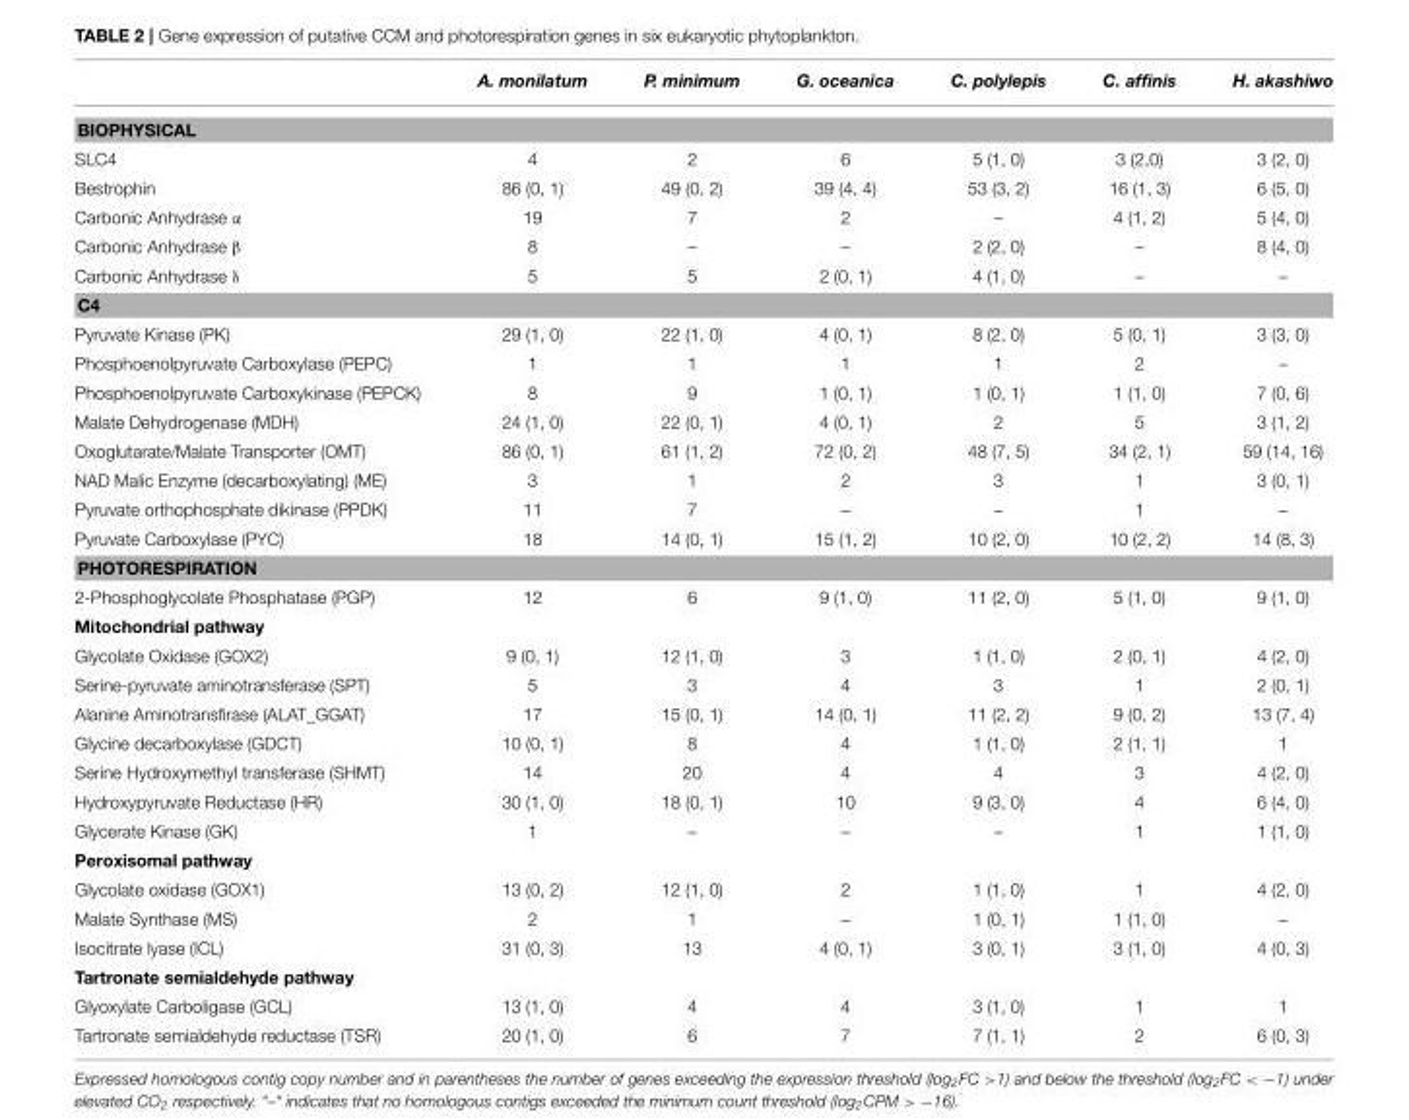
<table><thead><tr><td></td><td>A. monilatum</td><td>P. minimum</td><td>G. oceanica</td><td>C. polylepis</td><td>C. affinis</td><td>H. akashiwo</td></tr></thead><tbody><tr><td colspan="7">BIOPHYSICAL</td></tr><tr><td>SLC4</td><td>4</td><td>2</td><td>6</td><td>5 (1, 0)</td><td>3 (2,0)</td><td>3 (2, 0)</td></tr><tr><td>Bestrophin</td><td>86 (0, 1)</td><td>49 (0, 2)</td><td>39 (4, 4)</td><td>53 (3, 2)</td><td>16 (1, 3)</td><td>6 (5, 0)</td></tr><tr><td>Carbonic Anhydrase α</td><td>19</td><td>7</td><td>2</td><td>–</td><td>4 (1, 2)</td><td>5 (4, 0)</td></tr><tr><td>Carbonic Anhydrase β</td><td>8</td><td>–</td><td>–</td><td>2 (2, 0)</td><td>–</td><td>8 (4, 0)</td></tr><tr><td>Carbonic Anhydrase δ</td><td>5</td><td>5</td><td>2 (0, 1)</td><td>4 (1, 0)</td><td>–</td><td>–</td></tr><tr><td colspan="7">C4</td></tr><tr><td>Pyruvate Kinase (PK)</td><td>29 (1, 0)</td><td>22 (1, 0)</td><td>4 (0, 1)</td><td>8 (2, 0)</td><td>5 (0, 1)</td><td>3 (3, 0)</td></tr><tr><td>Phosphoenolpyruvate Carboxylase (PEPC)</td><td>1</td><td>1</td><td>1</td><td>1</td><td>2</td><td>–</td></tr><tr><td>Phosphoenolpyruvate Carboxykinase (PEPCK)</td><td>8</td><td>9</td><td>1 (0, 1)</td><td>1 (0, 1)</td><td>1 (1, 0)</td><td>7 (0, 6)</td></tr><tr><td>Malate Dehydrogenase (MDH)</td><td>24 (1, 0)</td><td>22 (0, 1)</td><td>4 (0, 1)</td><td>2</td><td>5</td><td>3 (1, 2)</td></tr><tr><td>Oxoglutarate/Malate Transporter (OMT)</td><td>86 (0, 1)</td><td>61 (1, 2)</td><td>72 (0, 2)</td><td>48 (7, 5)</td><td>34 (2, 1)</td><td>59 (14, 16)</td></tr><tr><td>NAD Malic Enzyme (decarboxylating) (ME)</td><td>3</td><td>1</td><td>2</td><td>3</td><td>1</td><td>3 (0, 1)</td></tr><tr><td>Pyruvate orthophosphate dikinase (PPDK)</td><td>11</td><td>7</td><td>–</td><td>–</td><td>1</td><td>–</td></tr><tr><td>Pyruvate Carboxylase (PYC)</td><td>18</td><td>14 (0, 1)</td><td>15 (1, 2)</td><td>10 (2, 0)</td><td>10 (2, 2)</td><td>14 (8, 3)</td></tr><tr><td colspan="7">PHOTORESPIRATION</td></tr><tr><td>2-Phosphoglycolate Phosphatase (PGP)</td><td>12</td><td>6</td><td>9 (1, 0)</td><td>11 (2, 0)</td><td>5 (1, 0)</td><td>9 (1, 0)</td></tr><tr><td colspan="7">Mitochondrial pathway</td></tr><tr><td>Glycolate Oxidase (GOX2)</td><td>9 (0, 1)</td><td>12 (1, 0)</td><td>3</td><td>1 (1, 0)</td><td>2 (0, 1)</td><td>4 (2, 0)</td></tr><tr><td>Serine-pyruvate aminotransferase (SPT)</td><td>5</td><td>3</td><td>4</td><td>3</td><td>1</td><td>2 (0, 1)</td></tr><tr><td>Alanine Aminotransfirase (ALAT_GGAT)</td><td>17</td><td>15 (0, 1)</td><td>14 (0, 1)</td><td>11 (2, 2)</td><td>9 (0, 2)</td><td>13 (7, 4)</td></tr><tr><td>Glycine decarboxylase (GDCT)</td><td>10 (0, 1)</td><td>8</td><td>4</td><td>1 (1, 0)</td><td>2 (1, 1)</td><td>1</td></tr><tr><td>Serine Hydroxymethyl transferase (SHMT)</td><td>14</td><td>20</td><td>4</td><td>4</td><td>3</td><td>4 (2, 0)</td></tr><tr><td>Hydroxypyruvate Reductase (HR)</td><td>30 (1, 0)</td><td>18 (0, 1)</td><td>10</td><td>9 (3, 0)</td><td>4</td><td>6 (4, 0)</td></tr><tr><td>Glycerate Kinase (GK)</td><td>1</td><td>–</td><td>–</td><td>–</td><td>1</td><td>1 (1, 0)</td></tr><tr><td colspan="7">Peroxisomal pathway</td></tr><tr><td>Glycolate oxidase (GOX1)</td><td>13 (0, 2)</td><td>12 (1, 0)</td><td>2</td><td>1 (1, 0)</td><td>1</td><td>4 (2, 0)</td></tr><tr><td>Malate Synthase (MS)</td><td>2</td><td>1</td><td>–</td><td>1 (0, 1)</td><td>1 (1, 0)</td><td>–</td></tr><tr><td>Isocitrate lyase (ICL)</td><td>31 (0, 3)</td><td>13</td><td>4 (0, 1)</td><td>3 (0, 1)</td><td>3 (1, 0)</td><td>4 (0, 3)</td></tr><tr><td colspan="7">Tartronate semialdehyde pathway</td></tr><tr><td>Glyoxylate Carboligase (GCL)</td><td>13 (1, 0)</td><td>4</td><td>4</td><td>3 (1, 0)</td><td>1</td><td>1</td></tr><tr><td>Tartronate semialdehyde reductase (TSR)</td><td>20 (1, 0)</td><td>6</td><td>7</td><td>7 (1, 1)</td><td>2</td><td>6 (0, 3)</td></tr></tbody></table>